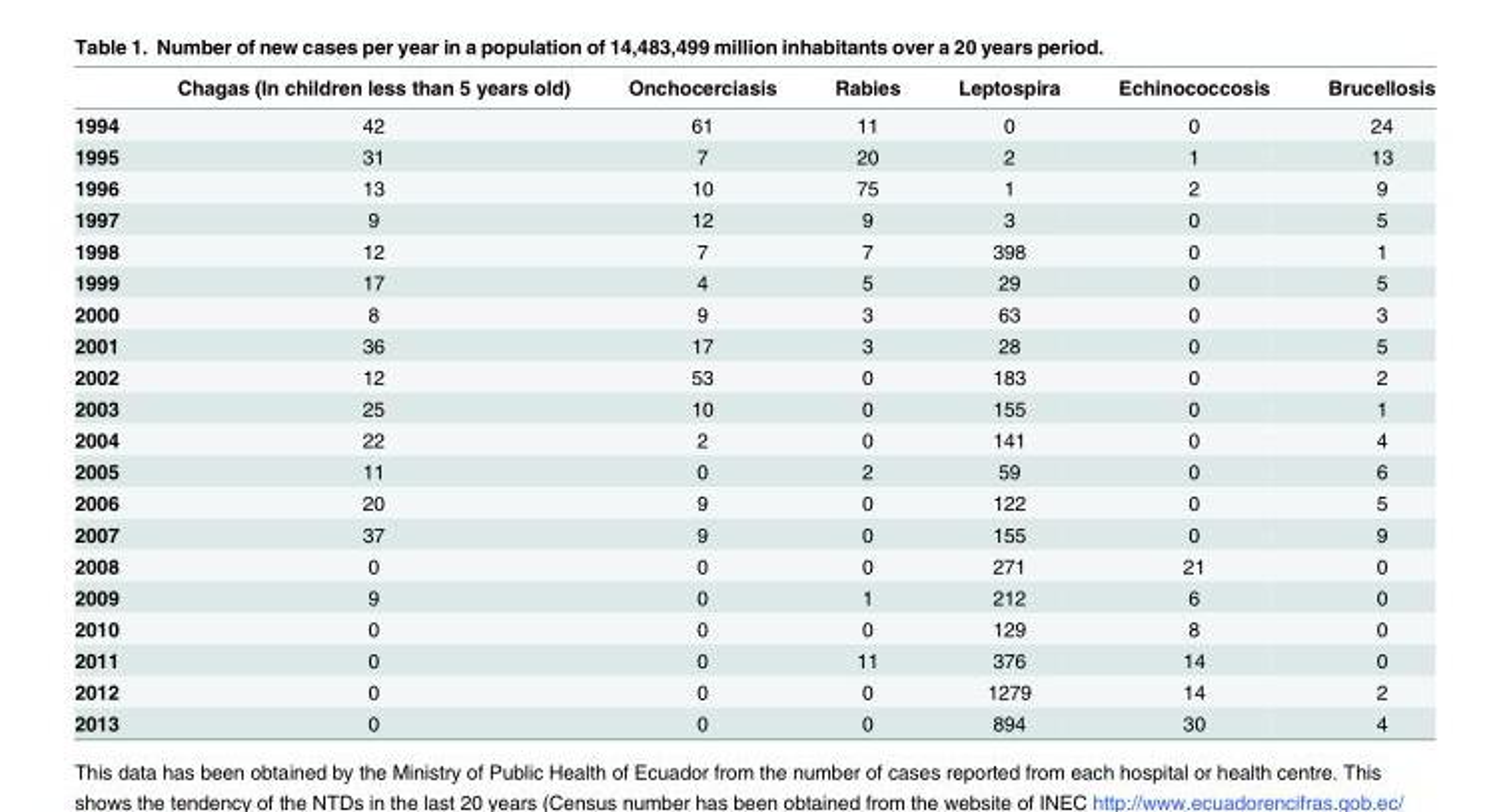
<table><thead><tr><td></td><td>Chagas (In children less than 5 years old)</td><td>Onchocerciasis</td><td>Rabies</td><td>Leptospira</td><td>Echinococcosis</td><td>Brucellosis</td></tr></thead><tbody><tr><td>1994</td><td>42</td><td>61</td><td>11</td><td>0</td><td>0</td><td>24</td></tr><tr><td>1995</td><td>31</td><td>7</td><td>20</td><td>2</td><td>1</td><td>13</td></tr><tr><td>1996</td><td>13</td><td>10</td><td>75</td><td>1</td><td>2</td><td>9</td></tr><tr><td>1997</td><td>9</td><td>12</td><td>9</td><td>3</td><td>0</td><td>5</td></tr><tr><td>1998</td><td>12</td><td>7</td><td>7</td><td>398</td><td>0</td><td>1</td></tr><tr><td>1999</td><td>17</td><td>4</td><td>5</td><td>29</td><td>0</td><td>5</td></tr><tr><td>2000</td><td>8</td><td>9</td><td>3</td><td>63</td><td>0</td><td>3</td></tr><tr><td>2001</td><td>36</td><td>17</td><td>3</td><td>28</td><td>0</td><td>5</td></tr><tr><td>2002</td><td>12</td><td>53</td><td>0</td><td>183</td><td>0</td><td>2</td></tr><tr><td>2003</td><td>25</td><td>10</td><td>0</td><td>155</td><td>0</td><td>1</td></tr><tr><td>2004</td><td>22</td><td>2</td><td>0</td><td>141</td><td>0</td><td>4</td></tr><tr><td>2005</td><td>11</td><td>0</td><td>2</td><td>59</td><td>0</td><td>6</td></tr><tr><td>2006</td><td>20</td><td>9</td><td>0</td><td>122</td><td>0</td><td>5</td></tr><tr><td>2007</td><td>37</td><td>9</td><td>0</td><td>155</td><td>0</td><td>9</td></tr><tr><td>2008</td><td>0</td><td>0</td><td>0</td><td>271</td><td>21</td><td>0</td></tr><tr><td>2009</td><td>9</td><td>0</td><td>1</td><td>212</td><td>6</td><td>0</td></tr><tr><td>2010</td><td>0</td><td>0</td><td>0</td><td>129</td><td>8</td><td>0</td></tr><tr><td>2011</td><td>0</td><td>0</td><td>11</td><td>376</td><td>14</td><td>0</td></tr><tr><td>2012</td><td>0</td><td>0</td><td>0</td><td>1279</td><td>14</td><td>2</td></tr><tr><td>2013</td><td>0</td><td>0</td><td>0</td><td>894</td><td>30</td><td>4</td></tr></tbody></table>